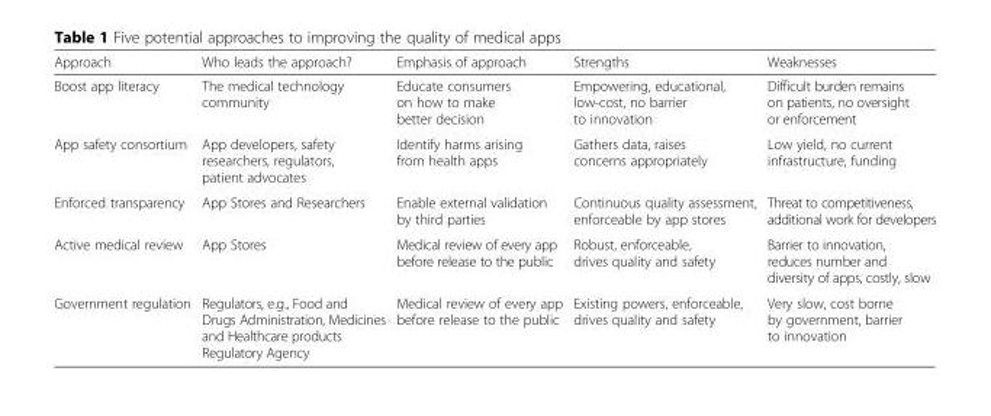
<table><thead><tr><td>Approach</td><td>Who leads the approach?</td><td>Emphasis of approach</td><td>Strengths</td><td>Weaknesses</td></tr></thead><tbody><tr><td>Boost app literacy</td><td>The medical technology community</td><td>Educate consumers on how to make better decision</td><td>Empowering, educational, low-cost, no barrier to innovation</td><td>Difficult burden remains on patients, no oversight or enforcement</td></tr><tr><td>App safety consortium</td><td>App developers, safety researchers, regulators, patient advocates</td><td>Identify harms arising from health apps</td><td>Gathers data, raises concerns appropriately</td><td>Low yield, no current infrastructure, funding</td></tr><tr><td>Enforced transparency</td><td>App Stores and Researchers</td><td>Enable external validation by third parties</td><td>Continuous quality assessment, enforceable by app stores</td><td>Threat to competitiveness, additional work for developers</td></tr><tr><td>Active medical review</td><td>App Stores</td><td>Medical review of every app before release to the public</td><td>Robust, enforceable, drives quality and safety</td><td>Barrier to innovation, reduces number and diversity of apps, costly, slow</td></tr><tr><td>Government regulation</td><td>Regulators, e.g., Food and Drugs Administration, Medicines and Healthcare products Regulatory Agency</td><td>Medical review of every app before release to the public</td><td>Existing powers, enforceable, drives quality and safety</td><td>Very slow, cost borne by government, barrier to innovation</td></tr></tbody></table>